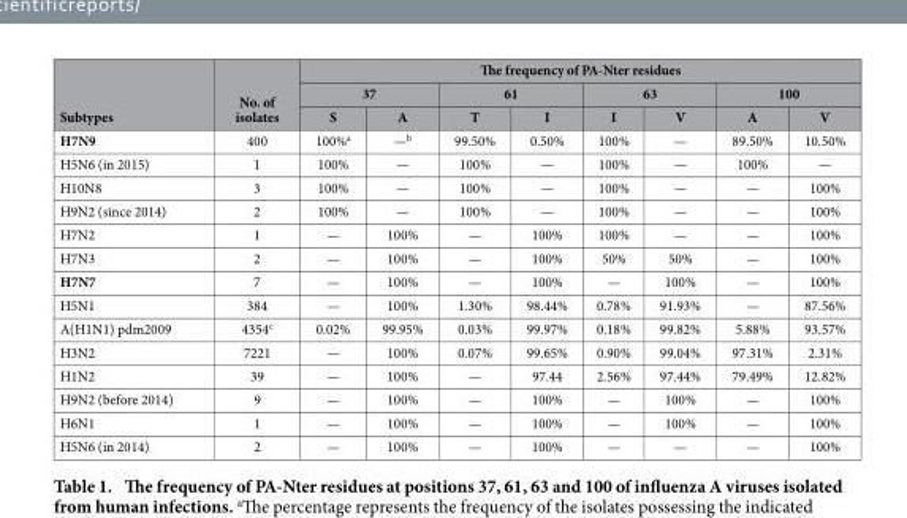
<table><thead><tr><td rowspan="3">Subtypes</td><td rowspan="3">No. of isolates</td><td colspan="8">The frequency of PA-Nter residues</td></tr><tr><td colspan="2">37</td><td colspan="2">61</td><td colspan="2">63</td><td colspan="2">100</td></tr><tr><td>S</td><td>A</td><td>T</td><td>I</td><td>I</td><td>V</td><td>A</td><td>V</td></tr></thead><tbody><tr><td>H7N9</td><td>400</td><td>100%<sup>a</sup></td><td>—b</td><td>99.50%</td><td>0.50%</td><td>100%</td><td>—</td><td>89.50%</td><td>10.50%</td></tr><tr><td>H5N6 (in 2015)</td><td>1</td><td>100%</td><td>—</td><td>100%</td><td>—</td><td>100%</td><td>—</td><td>100%</td><td>—</td></tr><tr><td>H10N8</td><td>3</td><td>100%</td><td>—</td><td>100%</td><td>—</td><td>100%</td><td>—</td><td>—</td><td>100%</td></tr><tr><td>H9N2 (since 2014)</td><td>2</td><td>100%</td><td>—</td><td>100%</td><td>—</td><td>100%</td><td>—</td><td>—</td><td>100%</td></tr><tr><td>H7N2</td><td>1</td><td>—</td><td>100%</td><td>—</td><td>100%</td><td>100%</td><td>—</td><td>—</td><td>100%</td></tr><tr><td>H7N3</td><td>2</td><td>—</td><td>100%</td><td>—</td><td>100%</td><td>50%</td><td>50%</td><td>—</td><td>100%</td></tr><tr><td>H7N7</td><td>7</td><td>—</td><td>100%</td><td>—</td><td>100%</td><td>—</td><td>100%</td><td>—</td><td>100%</td></tr><tr><td>H5N1</td><td>384</td><td>—</td><td>100%</td><td>1.30%</td><td>98.44%</td><td>0.78%</td><td>91.93%</td><td>—</td><td>87.56%</td></tr><tr><td>A(H1N1) pdm2009</td><td>4354<sup>c</sup></td><td>0.02%</td><td>99.95%</td><td>0.03%</td><td>99.97%</td><td>0.18%</td><td>99.82%</td><td>5.88%</td><td>93.57%</td></tr><tr><td>H3N2</td><td>7221</td><td>—</td><td>100%</td><td>0.07%</td><td>99.65%</td><td>0.90%</td><td>99.04%</td><td>97.31%</td><td>2.31%</td></tr><tr><td>H1N2</td><td>39</td><td>—</td><td>100%</td><td>—</td><td>97.44</td><td>2.56%</td><td>97.44%</td><td>79.49%</td><td>12.82%</td></tr><tr><td>H9N2 (before 2014)</td><td>9</td><td>—</td><td>100%</td><td>—</td><td>100%</td><td>—</td><td>100%</td><td>—</td><td>100%</td></tr><tr><td>H6N1</td><td>1</td><td>—</td><td>100%</td><td>—</td><td>100%</td><td>—</td><td>100%</td><td>—</td><td>100%</td></tr><tr><td>H5N6 (in 2014)</td><td>2</td><td>—</td><td>100%</td><td>—</td><td>100%</td><td>—</td><td>—</td><td>—</td><td>100%</td></tr></tbody></table>